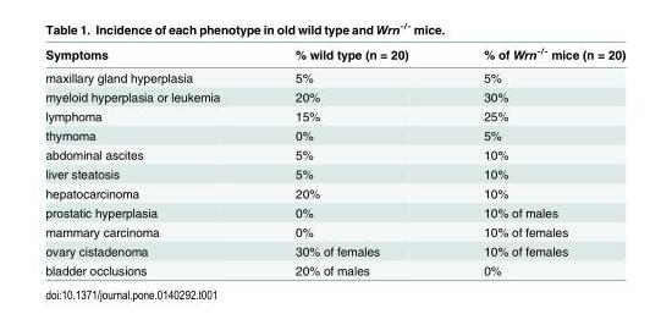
<table><thead><tr><td>Symptoms</td><td>% wild type (n = 20)</td><td>% of Wrn<sup>-/-</sup> mice (n = 20)</td></tr></thead><tbody><tr><td>maxillary gland hyperplasia</td><td>5%</td><td>5%</td></tr><tr><td>myeloid hyperplasia or leukemia</td><td>20%</td><td>30%</td></tr><tr><td>lymphoma</td><td>15%</td><td>25%</td></tr><tr><td>thymoma</td><td>0%</td><td>5%</td></tr><tr><td>abdominal ascites</td><td>5%</td><td>10%</td></tr><tr><td>liver steatosis</td><td>5%</td><td>10%</td></tr><tr><td>hepatocarcinoma</td><td>20%</td><td>10%</td></tr><tr><td>prostatic hyperplasia</td><td>0%</td><td>10% of males</td></tr><tr><td>mammary carcinoma</td><td>0%</td><td>10% of females</td></tr><tr><td>ovary cistadenoma</td><td>30% of females</td><td>10% of females</td></tr><tr><td>bladder occlusions</td><td>20% of males</td><td>0%</td></tr></tbody></table>